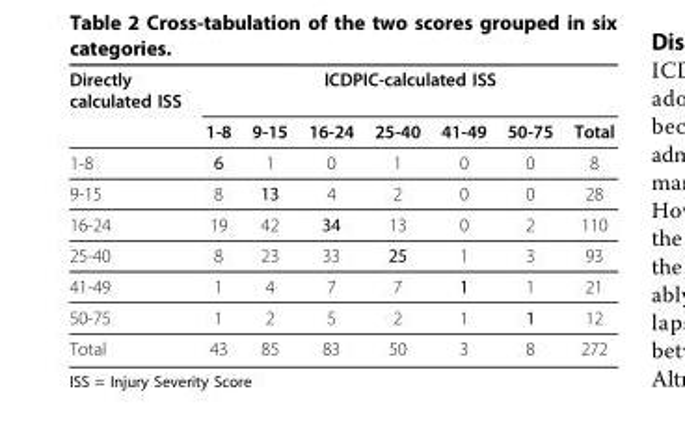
<table><thead><tr><td rowspan="2">Directly calculated ISS</td><td colspan="7">ICDPIC-calculated ISS</td></tr><tr><td>1-8</td><td>9-15</td><td>16-24</td><td>25-40</td><td>41-49</td><td>50-75</td><td>Total</td></tr></thead><tbody><tr><td>1-8</td><td>6</td><td>1</td><td>0</td><td>1</td><td>0</td><td>0</td><td>8</td></tr><tr><td>9-15</td><td>8</td><td>13</td><td>4</td><td>2</td><td>0</td><td>0</td><td>28</td></tr><tr><td>16-24</td><td>19</td><td>42</td><td>34</td><td>13</td><td>0</td><td>2</td><td>110</td></tr><tr><td>25-40</td><td>8</td><td>23</td><td>33</td><td>25</td><td>1</td><td>3</td><td>93</td></tr><tr><td>41-49</td><td>1</td><td>4</td><td>7</td><td>7</td><td>1</td><td>1</td><td>21</td></tr><tr><td>50-75</td><td>1</td><td>2</td><td>5</td><td>2</td><td>1</td><td>1</td><td>12</td></tr><tr><td>Total</td><td>43</td><td>85</td><td>83</td><td>50</td><td>3</td><td>8</td><td>272</td></tr></tbody></table>